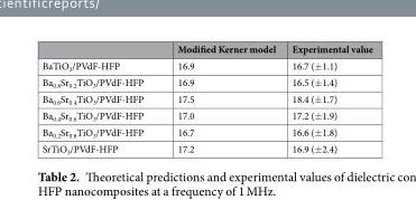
<table><thead><tr><td></td><td>Modified Kerner model</td><td>Experimental value</td></tr></thead><tbody><tr><td>BaTiO<sub>3</sub>/PVdF-HFP</td><td>16.9</td><td>16.7 (±1.1)</td></tr><tr><td>Ba<sub>0.8</sub>Sr<sub>0.2</sub>TiO<sub>3</sub>/PVdF-HFP</td><td>16.9</td><td>16.5 (±1.4)</td></tr><tr><td>Ba<sub>0.6</sub>Sr<sub>0.4</sub>TiO<sub>3</sub>/PVdF-HFP</td><td>17.5</td><td>18.4 (±1.7)</td></tr><tr><td>Ba<sub>0.4</sub>Sr<sub>0.6</sub>TiO<sub>3</sub>/PVdF-HFP</td><td>17.0</td><td>17.2 (±1.9)</td></tr><tr><td>Ba<sub>0.2</sub>Sr<sub>0.8</sub>TiO<sub>3</sub>/PVdF-HFP</td><td>16.7</td><td>16.6 (±1.8)</td></tr><tr><td>SrTiO<sub>3</sub>/PVdF-HFP</td><td>17.2</td><td>16.9 (±2.4)</td></tr></tbody></table>